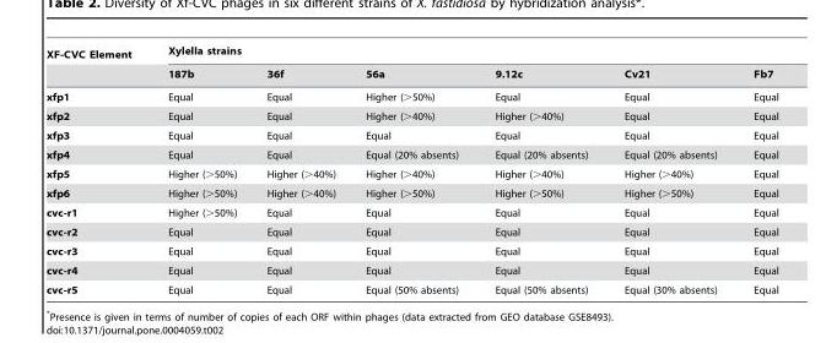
<table><thead><tr><td rowspan="2">XF-CVC Element</td><td colspan="6">Xylella strains</td></tr><tr><td>187b</td><td>36f</td><td>56a</td><td>9.12c</td><td>Cv21</td><td>Fb7</td></tr></thead><tbody><tr><td>xfp1</td><td>Equal</td><td>Equal</td><td>Higher (&gt;50%)</td><td>Equal</td><td>Equal</td><td>Equal</td></tr><tr><td>xfp2</td><td>Equal</td><td>Equal</td><td>Higher (&gt;40%)</td><td>Higher (&gt;40%)</td><td>Equal</td><td>Equal</td></tr><tr><td>xfp3</td><td>Equal</td><td>Equal</td><td>Equal</td><td>Equal</td><td>Equal</td><td>Equal</td></tr><tr><td>xfp4</td><td>Equal</td><td>Equal</td><td>Equal (20% absents)</td><td>Equal (20% absents)</td><td>Equal (20% absents)</td><td>Equal</td></tr><tr><td>xfp5</td><td>Higher (&gt;50%)</td><td>Higher (&gt;40%)</td><td>Higher (&gt;40%)</td><td>Higher (&gt;40%)</td><td>Higher (&gt;40%)</td><td>Equal</td></tr><tr><td>xfp6</td><td>Higher (&gt;50%)</td><td>Higher (&gt;40%)</td><td>Higher (&gt;50%)</td><td>Higher (&gt;50%)</td><td>Higher (&gt;50%)</td><td>Equal</td></tr><tr><td>cvc-r1</td><td>Higher (&gt;50%)</td><td>Equal</td><td>Equal</td><td>Equal</td><td>Equal</td><td>Equal</td></tr><tr><td>cvc-r2</td><td>Equal</td><td>Equal</td><td>Equal</td><td>Equal</td><td>Equal</td><td>Equal</td></tr><tr><td>cvc-r3</td><td>Equal</td><td>Equal</td><td>Equal</td><td>Equal</td><td>Equal</td><td>Equal</td></tr><tr><td>cvc-r4</td><td>Equal</td><td>Equal</td><td>Equal</td><td>Equal</td><td>Equal</td><td>Equal</td></tr><tr><td>cvc-r5</td><td>Equal</td><td>Equal</td><td>Equal (50% absents)</td><td>Equal (50% absents)</td><td>Equal (30% absents)</td><td>Equal</td></tr></tbody></table>